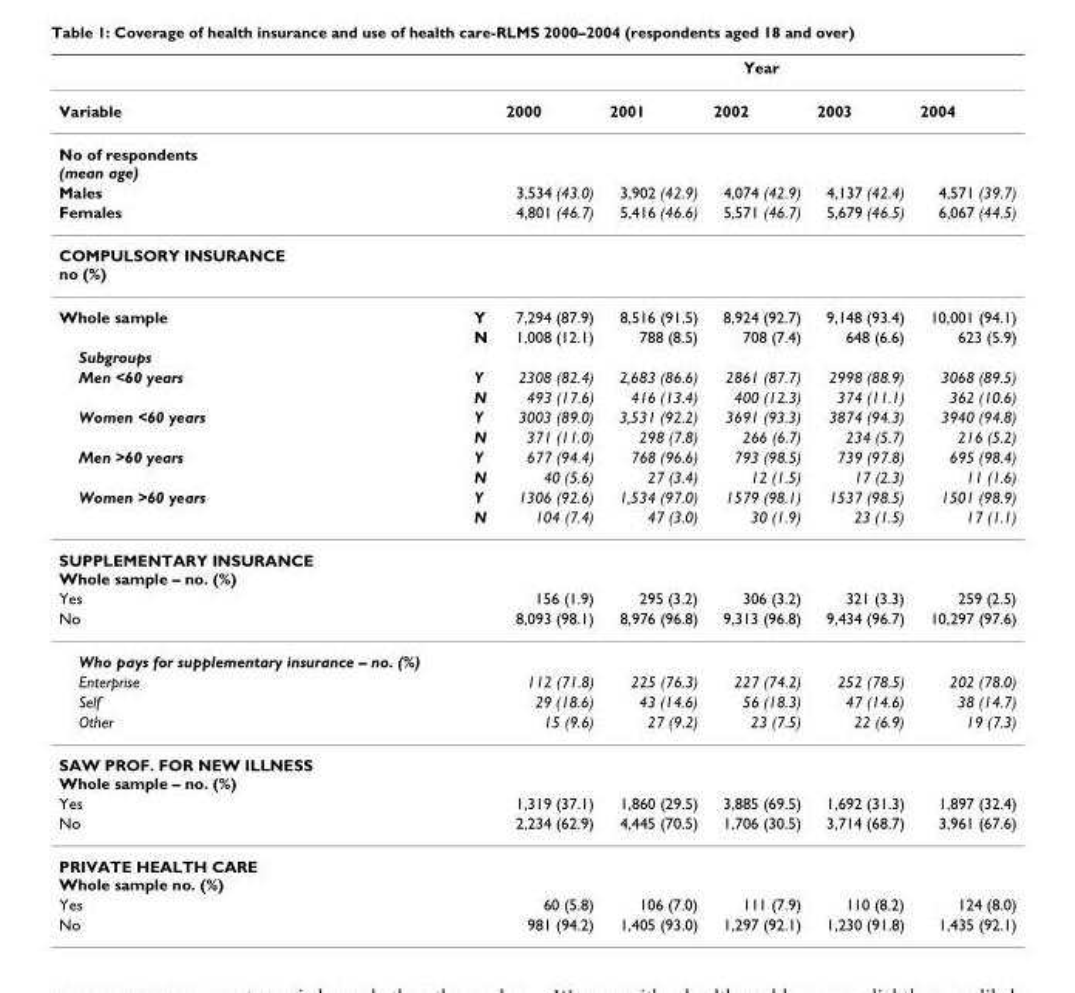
<table><thead><tr><td rowspan="2">Variable</td><td rowspan="2"></td><td colspan="5">Year</td></tr><tr><td>2000</td><td>2001</td><td>2002</td><td>2003</td><td>2004</td></tr></thead><tbody><tr><td colspan="7">No of respondents (mean age)</td></tr><tr><td>Males</td><td></td><td>3,534 (43.0)</td><td>3,902 (42.9)</td><td>4,074 (42.9)</td><td>4,137 (42.4)</td><td>4,571 (39.7)</td></tr><tr><td>Females</td><td></td><td>4,801 (46.7)</td><td>5,416 (46.6)</td><td>5,571 (46.7)</td><td>5,679 (46.5)</td><td>6,067 (44.5)</td></tr><tr><td colspan="7">COMPULSORY INSURANCE no (%)</td></tr><tr><td rowspan="2">Whole sample</td><td>Y</td><td>7,294 (87.9)</td><td>8,516 (91.5)</td><td>8,924 (92.7)</td><td>9,148 (93.4)</td><td>10,001 (94.1)</td></tr><tr><td>N</td><td>1,008 (12.1)</td><td>788 (8.5)</td><td>708 (7.4)</td><td>648 (6.6)</td><td>623 (5.9)</td></tr><tr><td colspan="7">Subgroups</td></tr><tr><td rowspan="2">Men &lt;60 years</td><td>Y</td><td>2308 (82.4)</td><td>2,683 (86.6)</td><td>2861 (87.7)</td><td>2998 (88.9)</td><td>3068 (89.5)</td></tr><tr><td>N</td><td>493 (17.6)</td><td>416 (13.4)</td><td>400 (12.3)</td><td>374 (11.1)</td><td>362 (10.6)</td></tr><tr><td rowspan="2">Women &lt;60 years</td><td>Y</td><td>3003 (89.0)</td><td>3,531 (92.2)</td><td>3691 (93.3)</td><td>3874 (94.3)</td><td>3940 (94.8)</td></tr><tr><td>N</td><td>371 (11.0)</td><td>298 (7.8)</td><td>266 (6.7)</td><td>234 (5.7)</td><td>216 (5.2)</td></tr><tr><td rowspan="2">Men &gt;60 years</td><td>Y</td><td>677 (94.4)</td><td>768 (96.6)</td><td>793 (98.5)</td><td>739 (97.8)</td><td>695 (98.4)</td></tr><tr><td>N</td><td>40 (5.6)</td><td>27 (3.4)</td><td>12 (1.5)</td><td>17 (2.3)</td><td>11 (1.6)</td></tr><tr><td rowspan="2">Women &gt;60 years</td><td>Y</td><td>1306 (92.6)</td><td>1,534 (97.0)</td><td>1579 (98.1)</td><td>1537 (98.5)</td><td>1501 (98.9)</td></tr><tr><td>N</td><td>104 (7.4)</td><td>47 (3.0)</td><td>30 (1.9)</td><td>23 (1.5)</td><td>17 (1.1)</td></tr><tr><td colspan="7">SUPPLEMENTARY INSURANCE Whole sample – no. (%)</td></tr><tr><td>Yes</td><td></td><td>156 (1.9)</td><td>295 (3.2)</td><td>306 (3.2)</td><td>321 (3.3)</td><td>259 (2.5)</td></tr><tr><td>No</td><td></td><td>8,093 (98.1)</td><td>8,976 (96.8)</td><td>9,313 (96.8)</td><td>9,434 (96.7)</td><td>10,297 (97.6)</td></tr><tr><td colspan="7">Who pays for supplementary insurance – no. (%)</td></tr><tr><td>Enterprise</td><td></td><td>112 (71.8)</td><td>225 (76.3)</td><td>227 (74.2)</td><td>252 (78.5)</td><td>202 (78.0)</td></tr><tr><td>Self</td><td></td><td>29 (18.6)</td><td>43 (14.6)</td><td>56 (18.3)</td><td>47 (14.6)</td><td>38 (14.7)</td></tr><tr><td>Other</td><td></td><td>15 (9.6)</td><td>27 (9.2)</td><td>23 (7.5)</td><td>22 (6.9)</td><td>19 (7.3)</td></tr><tr><td colspan="7">SAW PROF. FOR NEW ILLNESS Whole sample – no. (%)</td></tr><tr><td>Yes</td><td></td><td>1,319 (37.1)</td><td>1,860 (29.5)</td><td>3,885 (69.5)</td><td>1,692 (31.3)</td><td>1,897 (32.4)</td></tr><tr><td>No</td><td></td><td>2,234 (62.9)</td><td>4,445 (70.5)</td><td>1,706 (30.5)</td><td>3,714 (68.7)</td><td>3,961 (67.6)</td></tr><tr><td colspan="7">PRIVATE HEALTH CARE Whole sample no. (%)</td></tr><tr><td>Yes</td><td></td><td>60 (5.8)</td><td>106 (7.0)</td><td>111 (7.9)</td><td>110 (8.2)</td><td>124 (8.0)</td></tr><tr><td>No</td><td></td><td>981 (94.2)</td><td>1,405 (93.0)</td><td>1,297 (92.1)</td><td>1,230 (91.8)</td><td>1,435 (92.1)</td></tr></tbody></table>